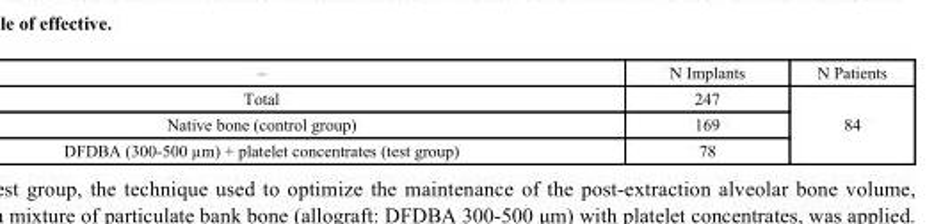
<table><tbody><tr><td>–</td><td>N Implants</td><td>N Patients</td></tr><tr><td>Total</td><td>247</td><td rowspan="3">84</td></tr><tr><td>Native bone (control group)</td><td>169</td></tr><tr><td>DFDBA (300-500 µm) + platelet concentrates (test group)</td><td>78</td></tr></tbody></table>